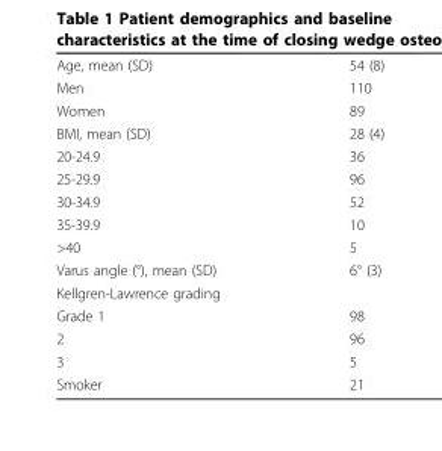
<table><tbody><tr><td>Age, mean (SD)</td><td>54 (8)</td></tr><tr><td>Men</td><td>110</td></tr><tr><td>Women</td><td>89</td></tr><tr><td>BMI, mean (SD)</td><td>28 (4)</td></tr><tr><td>20-24.9</td><td>36</td></tr><tr><td>25-29.9</td><td>96</td></tr><tr><td>30-34.9</td><td>52</td></tr><tr><td>35-39.9</td><td>10</td></tr><tr><td>&gt;40</td><td>5</td></tr><tr><td>Varus angle (°), mean (SD)</td><td>6° (3)</td></tr><tr><td colspan="2">Kellgren-Lawrence grading</td></tr><tr><td>Grade 1</td><td>98</td></tr><tr><td>2</td><td>96</td></tr><tr><td>3</td><td>5</td></tr><tr><td>Smoker</td><td>21</td></tr></tbody></table>